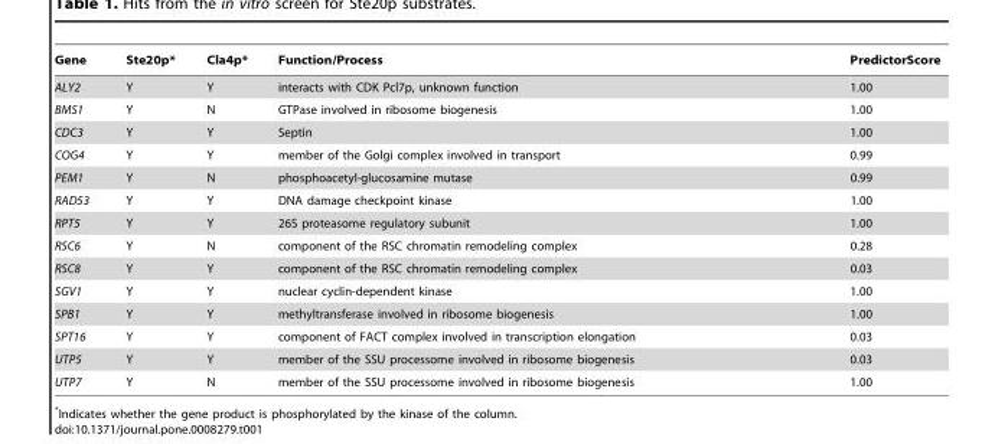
<table><thead><tr><td>Gene</td><td>Ste20p*</td><td>Cla4p*</td><td>Function/Process</td><td>PredictorScore</td></tr></thead><tbody><tr><td>ALY2</td><td>Y</td><td>Y</td><td>interacts with CDK Pcl7p, unknown function</td><td>1.00</td></tr><tr><td>BMS1</td><td>Y</td><td>N</td><td>GTPase involved in ribosome biogenesis</td><td>1.00</td></tr><tr><td>CDC3</td><td>Y</td><td>Y</td><td>Septin</td><td>1.00</td></tr><tr><td>COG4</td><td>Y</td><td>Y</td><td>member of the Golgi complex involved in transport</td><td>0.99</td></tr><tr><td>PEM1</td><td>Y</td><td>N</td><td>phosphoacetyl-glucosamine mutase</td><td>0.99</td></tr><tr><td>RAD53</td><td>Y</td><td>Y</td><td>DNA damage checkpoint kinase</td><td>1.00</td></tr><tr><td>RPT5</td><td>Y</td><td>Y</td><td>26S proteasome regulatory subunit</td><td>1.00</td></tr><tr><td>RSC6</td><td>Y</td><td>N</td><td>component of the RSC chromatin remodeling complex</td><td>0.28</td></tr><tr><td>RSC8</td><td>Y</td><td>Y</td><td>component of the RSC chromatin remodeling complex</td><td>0.03</td></tr><tr><td>SGV1</td><td>Y</td><td>Y</td><td>nuclear cyclin-dependent kinase</td><td>1.00</td></tr><tr><td>SPB1</td><td>Y</td><td>Y</td><td>methyltransferase involved in ribosome biogenesis</td><td>1.00</td></tr><tr><td>SPT16</td><td>Y</td><td>Y</td><td>component of FACT complex involved in transcription elongation</td><td>0.03</td></tr><tr><td>UTP5</td><td>Y</td><td>Y</td><td>member of the SSU processome involved in ribosome biogenesis</td><td>0.03</td></tr><tr><td>UTP7</td><td>Y</td><td>N</td><td>member of the SSU processome involved in ribosome biogenesis</td><td>1.00</td></tr></tbody></table>